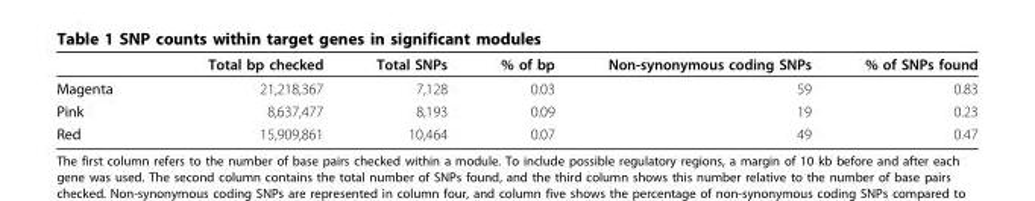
<table><thead><tr><td></td><td>Total bp checked</td><td>Total SNPs</td><td>% of bp</td><td>Non-synonymous coding SNPs</td><td>% of SNPs found</td></tr></thead><tbody><tr><td>Magenta</td><td>21,218,367</td><td>7,128</td><td>0.03</td><td>59</td><td>0.83</td></tr><tr><td>Pink</td><td>8,637,477</td><td>8,193</td><td>0.09</td><td>19</td><td>0.23</td></tr><tr><td>Red</td><td>15,909,861</td><td>10,464</td><td>0.07</td><td>49</td><td>0.47</td></tr></tbody></table>